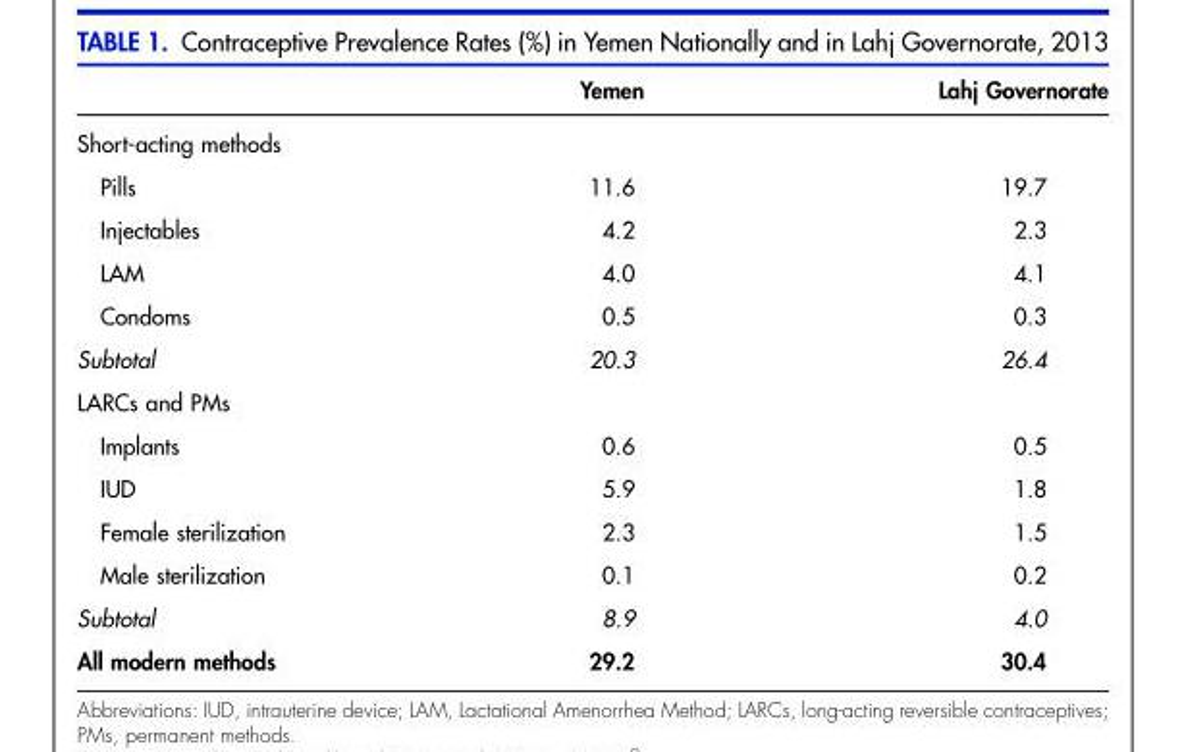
<table><thead><tr><td></td><td>Yemen</td><td>Lahj Governorate</td></tr></thead><tbody><tr><td colspan="3">Short-acting methods</td></tr><tr><td>Pills</td><td>11.6</td><td>19.7</td></tr><tr><td>Injectables</td><td>4.2</td><td>2.3</td></tr><tr><td>LAM</td><td>4.0</td><td>4.1</td></tr><tr><td>Condoms</td><td>0.5</td><td>0.3</td></tr><tr><td>Subtotal</td><td>20.3</td><td>26.4</td></tr><tr><td colspan="3">LARCs and PMs</td></tr><tr><td>Implants</td><td>0.6</td><td>0.5</td></tr><tr><td>IUD</td><td>5.9</td><td>1.8</td></tr><tr><td>Female sterilization</td><td>2.3</td><td>1.5</td></tr><tr><td>Male sterilization</td><td>0.1</td><td>0.2</td></tr><tr><td>Subtotal</td><td>8.9</td><td>4.0</td></tr><tr><td>All modern methods</td><td>29.2</td><td>30.4</td></tr></tbody></table>